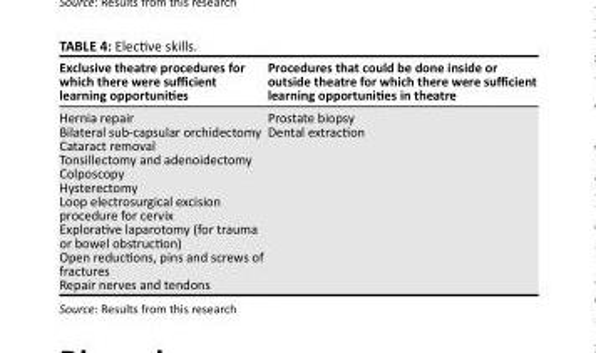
<table><thead><tr><td>Exclusive theatre procedures for which there were sufficient learning opportunities</td><td>Procedures that could be done inside or outside theatre for which there were sufficient learning opportunities in theatre</td></tr></thead><tbody><tr><td>Hernia repair Bilateral sub-capsular orchidectomy Cataract removal Tonsillectomy and adenoidectomy Colposcopy Hysterectomy Loop electrosurgical excision procedure for cervix Explorative laparotomy (for trauma or bowel obstruction) Open reductions, pins and screws of fractures Repair nerves and tendons</td><td>Prostate biopsy Dental extraction</td></tr></tbody></table>